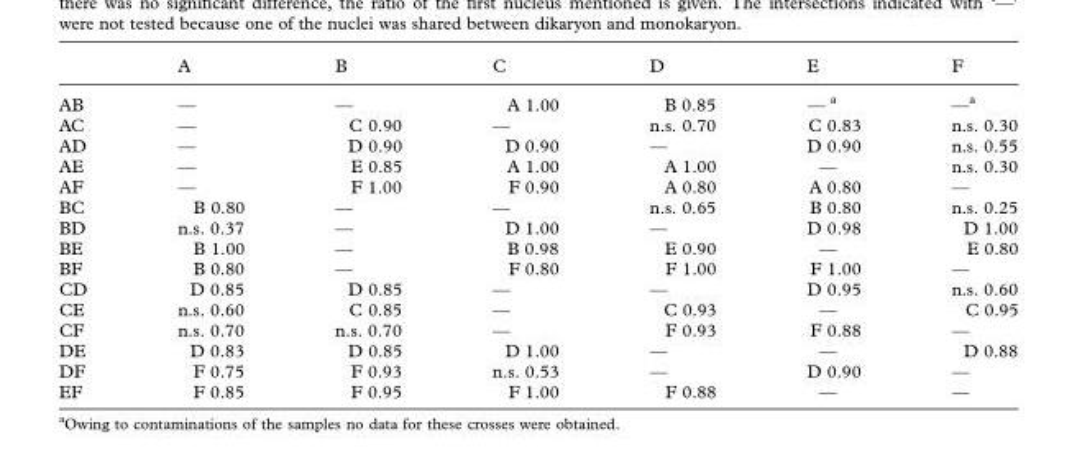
<table><thead><tr><td></td><td>A</td><td>B</td><td>C</td><td>D</td><td>E</td><td>F</td></tr></thead><tbody><tr><td>AB</td><td>—</td><td>—</td><td>A 1.00</td><td>B 0.85</td><td>— <sup>a</sup></td><td>—<sup>a</sup></td></tr><tr><td>AC</td><td>—</td><td>C 0.90</td><td>—</td><td>n.s. 0.70</td><td>C 0.83</td><td>n.s. 0.30</td></tr><tr><td>AD</td><td>—</td><td>D 0.90</td><td>D 0.90</td><td>—</td><td>D 0.90</td><td>n.s. 0.55</td></tr><tr><td>AE</td><td>—</td><td>E 0.85</td><td>A 1.00</td><td>A 1.00</td><td>—</td><td>n.s. 0.30</td></tr><tr><td>AF</td><td>—</td><td>F 1.00</td><td>F 0.90</td><td>A 0.80</td><td>A 0.80</td><td>—</td></tr><tr><td>BC</td><td>B 0.80</td><td>—</td><td>—</td><td>n.s. 0.65</td><td>B 0.80</td><td>n.s. 0.25</td></tr><tr><td>BD</td><td>n.s. 0.37</td><td>—</td><td>D 1.00</td><td>—</td><td>D 0.98</td><td>D 1.00</td></tr><tr><td>BE</td><td>B 1.00</td><td>—</td><td>B 0.98</td><td>E 0.90</td><td>—</td><td>E 0.80</td></tr><tr><td>BF</td><td>B 0.80</td><td>—</td><td>F 0.80</td><td>F 1.00</td><td>F 1.00</td><td>—</td></tr><tr><td>CD</td><td>D 0.85</td><td>D 0.85</td><td>—</td><td>—</td><td>D 0.95</td><td>n.s. 0.60</td></tr><tr><td>CE</td><td>n.s. 0.60</td><td>C 0.85</td><td>—</td><td>C 0.93</td><td>—</td><td>C 0.95</td></tr><tr><td>CF</td><td>n.s. 0.70</td><td>n.s. 0.70</td><td>—</td><td>F 0.93</td><td>F 0.88</td><td>—</td></tr><tr><td>DE</td><td>D 0.83</td><td>D 0.85</td><td>D 1.00</td><td>—</td><td>—</td><td>D 0.88</td></tr><tr><td>DF</td><td>F 0.75</td><td>F 0.93</td><td>n.s. 0.53</td><td>—</td><td>D 0.90</td><td>—</td></tr><tr><td>EF</td><td>F 0.85</td><td>F 0.95</td><td>F 1.00</td><td>F 0.88</td><td>—</td><td>—</td></tr></tbody></table>